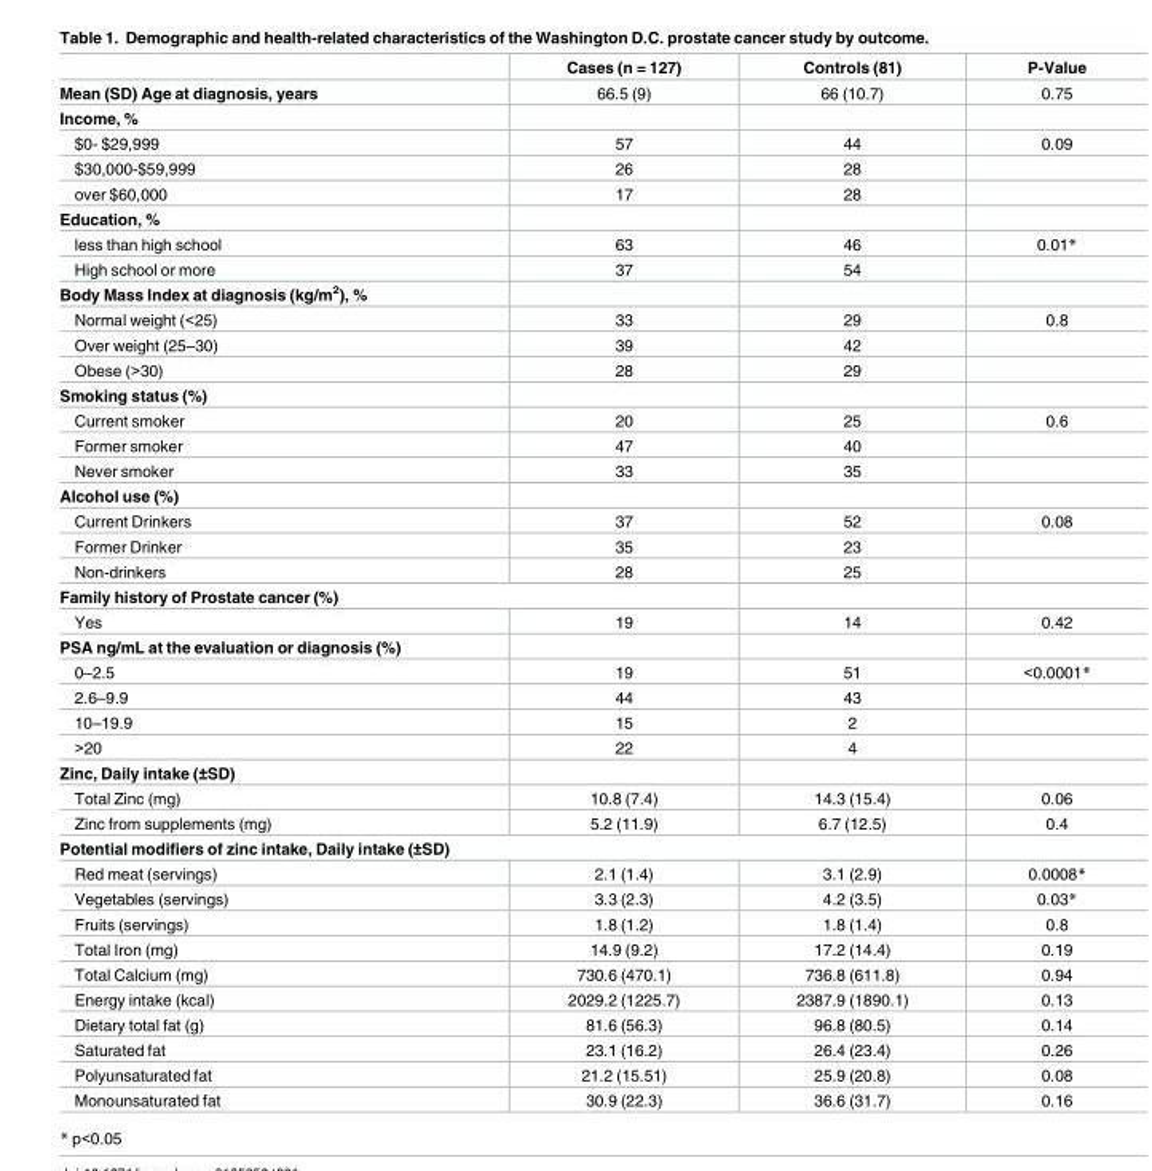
<table><thead><tr><td></td><td>Cases (n = 127)</td><td>Controls (81)</td><td>P-Value</td></tr></thead><tbody><tr><td>Mean (SD) Age at diagnosis, years</td><td>66.5 (9)</td><td>66 (10.7)</td><td>0.75</td></tr><tr><td colspan="4">Income, %</td></tr><tr><td>$0- $29,999</td><td>57</td><td>44</td><td>0.09</td></tr><tr><td>$30,000-$59,999</td><td>26</td><td>28</td><td></td></tr><tr><td>over $60,000</td><td>17</td><td>28</td><td></td></tr><tr><td colspan="4">Education, %</td></tr><tr><td>less than high school</td><td>63</td><td>46</td><td>0.01*</td></tr><tr><td>High school or more</td><td>37</td><td>54</td><td></td></tr><tr><td colspan="4">Body Mass Index at diagnosis (kg/m<sup>2</sup>), %</td></tr><tr><td>Normal weight (&lt;25)</td><td>33</td><td>29</td><td>0.8</td></tr><tr><td>Over weight (25–30)</td><td>39</td><td>42</td><td></td></tr><tr><td>Obese (&gt;30)</td><td>28</td><td>29</td><td></td></tr><tr><td colspan="4">Smoking status (%)</td></tr><tr><td>Current smoker</td><td>20</td><td>25</td><td>0.6</td></tr><tr><td>Former smoker</td><td>47</td><td>40</td><td></td></tr><tr><td>Never smoker</td><td>33</td><td>35</td><td></td></tr><tr><td colspan="4">Alcohol use (%)</td></tr><tr><td>Current Drinkers</td><td>37</td><td>52</td><td>0.08</td></tr><tr><td>Former Drinker</td><td>35</td><td>23</td><td></td></tr><tr><td>Non-drinkers</td><td>28</td><td>25</td><td></td></tr><tr><td colspan="4">Family history of Prostate cancer (%)</td></tr><tr><td>Yes</td><td>19</td><td>14</td><td>0.42</td></tr><tr><td colspan="4">PSA ng/mL at the evaluation or diagnosis (%)</td></tr><tr><td>0–2.5</td><td>19</td><td>51</td><td>&lt;0.0001*</td></tr><tr><td>2.6–9.9</td><td>44</td><td>43</td><td></td></tr><tr><td>10–19.9</td><td>15</td><td>2</td><td></td></tr><tr><td>&gt;20</td><td>22</td><td>4</td><td></td></tr><tr><td colspan="4">Zinc, Daily intake (±SD)</td></tr><tr><td>Total Zinc (mg)</td><td>10.8 (7.4)</td><td>14.3 (15.4)</td><td>0.06</td></tr><tr><td>Zinc from supplements (mg)</td><td>5.2 (11.9)</td><td>6.7 (12.5)</td><td>0.4</td></tr><tr><td colspan="4">Potential modifiers of zinc intake, Daily intake (±SD)</td></tr><tr><td>Red meat (servings)</td><td>2.1 (1.4)</td><td>3.1 (2.9)</td><td>0.0008*</td></tr><tr><td>Vegetables (servings)</td><td>3.3 (2.3)</td><td>4.2 (3.5)</td><td>0.03*</td></tr><tr><td>Fruits (servings)</td><td>1.8 (1.2)</td><td>1.8 (1.4)</td><td>0.8</td></tr><tr><td>Total Iron (mg)</td><td>14.9 (9.2)</td><td>17.2 (14.4)</td><td>0.19</td></tr><tr><td>Total Calcium (mg)</td><td>730.6 (470.1)</td><td>736.8 (611.8)</td><td>0.94</td></tr><tr><td>Energy intake (kcal)</td><td>2029.2 (1225.7)</td><td>2387.9 (1890.1)</td><td>0.13</td></tr><tr><td>Dietary total fat (g)</td><td>81.6 (56.3)</td><td>96.8 (80.5)</td><td>0.14</td></tr><tr><td>Saturated fat</td><td>23.1 (16.2)</td><td>26.4 (23.4)</td><td>0.26</td></tr><tr><td>Polyunsaturated fat</td><td>21.2 (15.51)</td><td>25.9 (20.8)</td><td>0.08</td></tr><tr><td>Monounsaturated fat</td><td>30.9 (22.3)</td><td>36.6 (31.7)</td><td>0.16</td></tr></tbody></table>